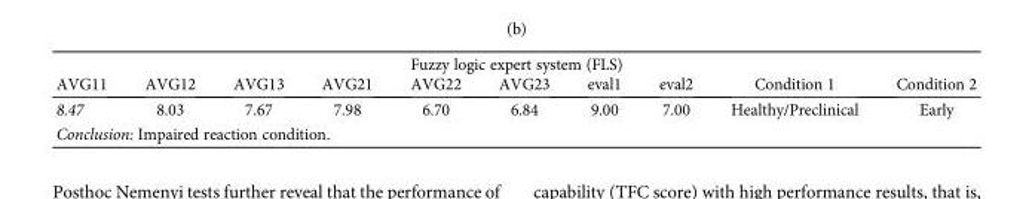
<table><thead><tr><td colspan="10">Fuzzy logic expert system (FLS)</td></tr><tr><td>AVG11</td><td>AVG12</td><td>AVG13</td><td>AVG21</td><td>AVG22</td><td>AVG23</td><td>eval1</td><td>eval2</td><td>Condition 1</td><td>Condition 2</td></tr></thead><tbody><tr><td>8.47</td><td>8.03</td><td>7.67</td><td>7.98</td><td>6.70</td><td>6.84</td><td>9.00</td><td>7.00</td><td>Healthy/Preclinical</td><td>Early</td></tr><tr><td colspan="10">Conclusion: Impaired reaction condition.</td></tr></tbody></table>